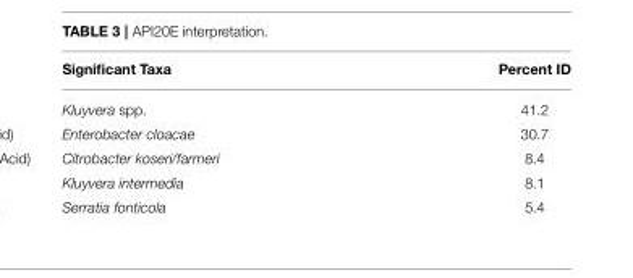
<table><thead><tr><td>Significant Taxa</td><td>Percent ID</td></tr></thead><tbody><tr><td>Kluyvera spp.</td><td>41.2</td></tr><tr><td>Enterobacter cloacae</td><td>30.7</td></tr><tr><td>Citrobacter koseri/farmeri</td><td>8.4</td></tr><tr><td>Kluyvera intermedia</td><td>8.1</td></tr><tr><td>Serratia fonticola</td><td>5.4</td></tr></tbody></table>